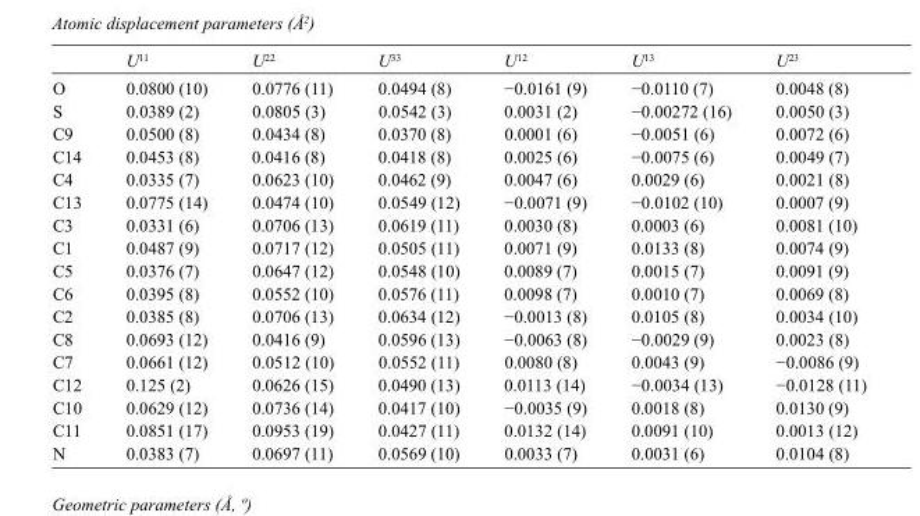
<table><thead><tr><td></td><td>U<sup>11</sup></td><td>U<sup>22</sup></td><td>U<sup>33</sup></td><td>U<sup>12</sup></td><td>U<sup>13</sup></td><td>U<sup>23</sup></td></tr></thead><tbody><tr><td>O</td><td>0.0800 (10)</td><td>0.0776 (11)</td><td>0.0494 (8)</td><td>−0.0161 (9)</td><td>−0.0110 (7)</td><td>0.0048 (8)</td></tr><tr><td>S</td><td>0.0389 (2)</td><td>0.0805 (3)</td><td>0.0542 (3)</td><td>0.0031 (2)</td><td>−0.00272 (16)</td><td>0.0050 (3)</td></tr><tr><td>C9</td><td>0.0500 (8)</td><td>0.0434 (8)</td><td>0.0370 (8)</td><td>0.0001 (6)</td><td>−0.0051 (6)</td><td>0.0072 (6)</td></tr><tr><td>C14</td><td>0.0453 (8)</td><td>0.0416 (8)</td><td>0.0418 (8)</td><td>0.0025 (6)</td><td>−0.0075 (6)</td><td>0.0049 (7)</td></tr><tr><td>C4</td><td>0.0335 (7)</td><td>0.0623 (10)</td><td>0.0462 (9)</td><td>0.0047 (6)</td><td>0.0029 (6)</td><td>0.0021 (8)</td></tr><tr><td>C13</td><td>0.0775 (14)</td><td>0.0474 (10)</td><td>0.0549 (12)</td><td>−0.0071 (9)</td><td>−0.0102 (10)</td><td>0.0007 (9)</td></tr><tr><td>C3</td><td>0.0331 (6)</td><td>0.0706 (13)</td><td>0.0619 (11)</td><td>0.0030 (8)</td><td>0.0003 (6)</td><td>0.0081 (10)</td></tr><tr><td>C1</td><td>0.0487 (9)</td><td>0.0717 (12)</td><td>0.0505 (11)</td><td>0.0071 (9)</td><td>0.0133 (8)</td><td>0.0074 (9)</td></tr><tr><td>C5</td><td>0.0376 (7)</td><td>0.0647 (12)</td><td>0.0548 (10)</td><td>0.0089 (7)</td><td>0.0015 (7)</td><td>0.0091 (9)</td></tr><tr><td>C6</td><td>0.0395 (8)</td><td>0.0552 (10)</td><td>0.0576 (11)</td><td>0.0098 (7)</td><td>0.0010 (7)</td><td>0.0069 (8)</td></tr><tr><td>C2</td><td>0.0385 (8)</td><td>0.0706 (13)</td><td>0.0634 (12)</td><td>−0.0013 (8)</td><td>0.0105 (8)</td><td>0.0034 (10)</td></tr><tr><td>C8</td><td>0.0693 (12)</td><td>0.0416 (9)</td><td>0.0596 (13)</td><td>−0.0063 (8)</td><td>−0.0029 (9)</td><td>0.0023 (8)</td></tr><tr><td>C7</td><td>0.0661 (12)</td><td>0.0512 (10)</td><td>0.0552 (11)</td><td>0.0080 (8)</td><td>0.0043 (9)</td><td>−0.0086 (9)</td></tr><tr><td>C12</td><td>0.125 (2)</td><td>0.0626 (15)</td><td>0.0490 (13)</td><td>0.0113 (14)</td><td>−0.0034 (13)</td><td>−0.0128 (11)</td></tr><tr><td>C10</td><td>0.0629 (12)</td><td>0.0736 (14)</td><td>0.0417 (10)</td><td>−0.0035 (9)</td><td>0.0018 (8)</td><td>0.0130 (9)</td></tr><tr><td>C11</td><td>0.0851 (17)</td><td>0.0953 (19)</td><td>0.0427 (11)</td><td>0.0132 (14)</td><td>0.0091 (10)</td><td>0.0013 (12)</td></tr><tr><td>N</td><td>0.0383 (7)</td><td>0.0697 (11)</td><td>0.0569 (10)</td><td>0.0033 (7)</td><td>0.0031 (6)</td><td>0.0104 (8)</td></tr></tbody></table>